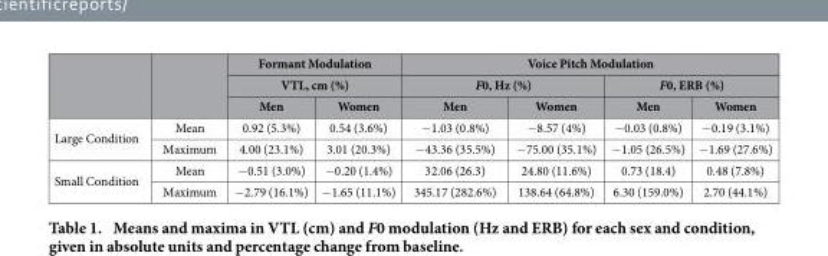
<table><thead><tr><td rowspan="3"></td><td rowspan="3"></td><td rowspan="2" colspan="2">Formant Modulation VTL, cm (%)</td><td colspan="4">Voice Pitch Modulation</td></tr><tr><td colspan="2">F0, Hz (%)</td><td colspan="2">F0, ERB (%)</td></tr><tr><td>Men</td><td>Women</td><td>Men</td><td>Women</td><td>Men</td><td>Women</td></tr></thead><tbody><tr><td rowspan="2">Large Condition</td><td>Mean</td><td>0.92 (5.3%)</td><td>0.54 (3.6%)</td><td>− 1.03 (0.8%)</td><td>− 8.57 (4%)</td><td>− 0.03 (0.8%)</td><td>− 0.19 (3.1%)</td></tr><tr><td>Maximum</td><td>4.00 (23.1%)</td><td>3.01 (20.3%)</td><td>− 43.36 (35.5%)</td><td>− 75.00 (35.1%)</td><td>− 1.05 (26.5%)</td><td>− 1.69 (27.6%)</td></tr><tr><td rowspan="2">Small Condition</td><td>Mean</td><td>− 0.51 (3.0%)</td><td>− 0.20 (1.4%)</td><td>32.06 (26.3)</td><td>24.80 (11.6%)</td><td>0.73 (18.4)</td><td>0.48 (7.8%)</td></tr><tr><td>Maximum</td><td>− 2.79 (16.1%)</td><td>− 1.65 (11.1%)</td><td>345.17 (282.6%)</td><td>138.64 (64.8%)</td><td>6.30 (159.0%)</td><td>2.70 (44.1%)</td></tr></tbody></table>